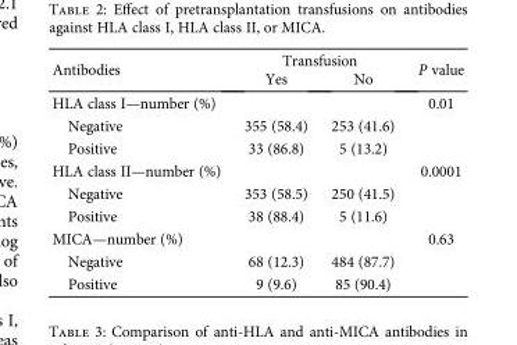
<table><thead><tr><td rowspan="2">Antibodies</td><td colspan="2">Transfusion</td><td rowspan="2">P value</td></tr><tr><td>Yes</td><td>No</td></tr></thead><tbody><tr><td>HLA class I—number (%)</td><td></td><td></td><td>0.01</td></tr><tr><td>Negative</td><td>355 (58.4)</td><td>253 (41.6)</td><td></td></tr><tr><td>Positive</td><td>33 (86.8)</td><td>5 (13.2)</td><td></td></tr><tr><td>HLA class II—number (%)</td><td></td><td></td><td>0.0001</td></tr><tr><td>Negative</td><td>353 (58.5)</td><td>250 (41.5)</td><td></td></tr><tr><td>Positive</td><td>38 (88.4)</td><td>5 (11.6)</td><td></td></tr><tr><td>MICA—number (%)</td><td></td><td></td><td>0.63</td></tr><tr><td>Negative</td><td>68 (12.3)</td><td>484 (87.7)</td><td></td></tr><tr><td>Positive</td><td>9 (9.6)</td><td>85 (90.4)</td><td></td></tr></tbody></table>